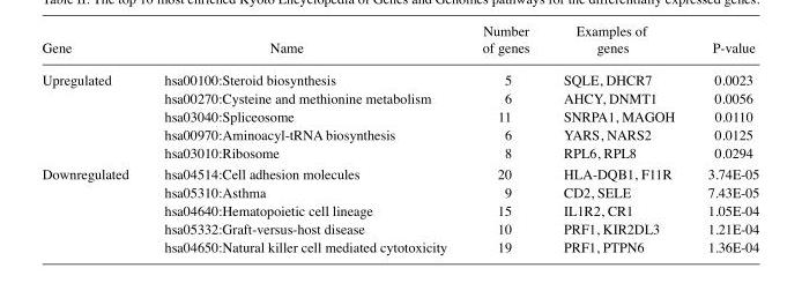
<table><thead><tr><td>Gene</td><td>Name</td><td>of genes</td><td>genes</td><td>P-value</td></tr></thead><tbody><tr><td rowspan="5">Upregulated</td><td>hsa00100:Steroid biosynthesis</td><td>5</td><td>SQLE, DHCR7</td><td>0.0023</td></tr><tr><td>hsa00270:Cysteine and methionine metabolism</td><td>6</td><td>AHCY, DNMT1</td><td>0.0056</td></tr><tr><td>hsa03040:Spliceosome</td><td>11</td><td>SNRPA1, MAGOH</td><td>0.0110</td></tr><tr><td>hsa00970:Aminoacyl-tRNA biosynthesis</td><td>6</td><td>YARS, NARS2</td><td>0.0125</td></tr><tr><td>hsa03010:Ribosome</td><td>8</td><td>RPL6, RPL8</td><td>0.0294</td></tr><tr><td rowspan="5">Downregulated</td><td>hsa04514:Cell adhesion molecules</td><td>20</td><td>HLA-DQB1, F11R</td><td>3.74E-05</td></tr><tr><td>hsa05310:Asthma</td><td>9</td><td>CD2, SELE</td><td>7.43E-05</td></tr><tr><td>hsa04640:Hematopoietic cell lineage</td><td>15</td><td>IL1R2, CR1</td><td>1.05E-04</td></tr><tr><td>hsa05332:Graft-versus-host disease</td><td>10</td><td>PRF1, KIR2DL3</td><td>1.21E-04</td></tr><tr><td>hsa04650:Natural killer cell mediated cytotoxicity</td><td>19</td><td>PRF1, PTPN6</td><td>1.36E-04</td></tr></tbody></table>